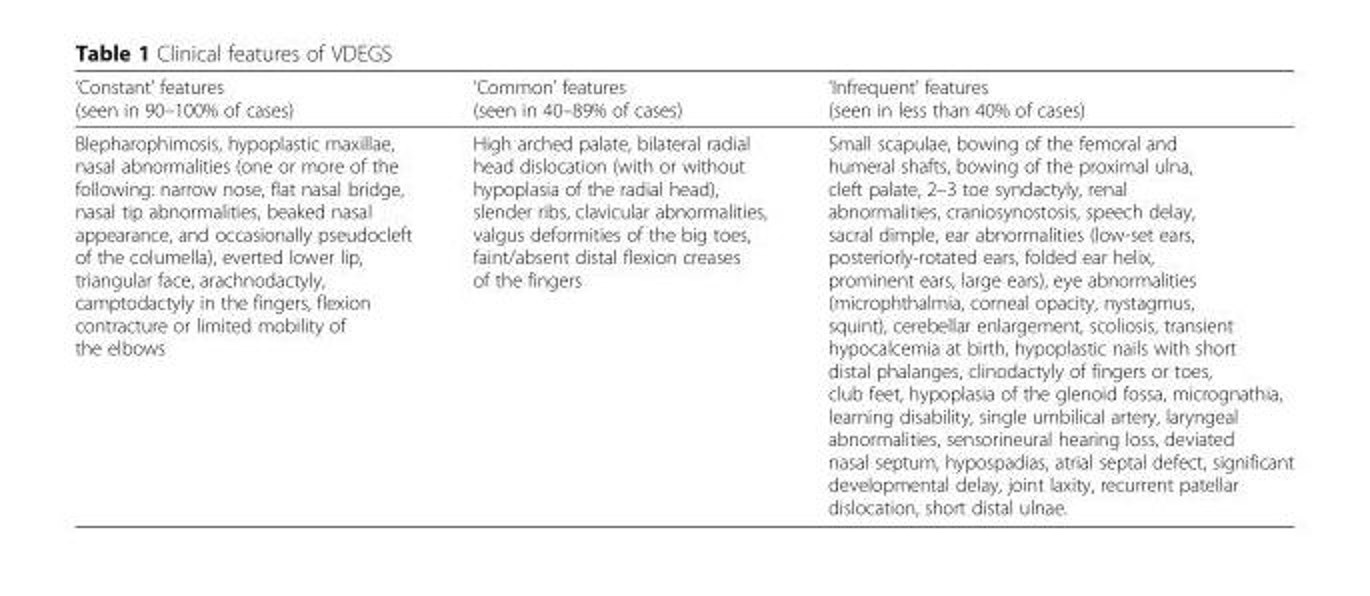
<table><thead><tr><td>‘Constant’ features (seen in 90–100% of cases)</td><td>‘Common’ features (seen in 40–89% of cases)</td><td>‘Infrequent’ features (seen in less than 40% of cases)</td></tr></thead><tbody><tr><td>Blepharophimosis, hypoplastic maxillae, nasal abnormalities (one or more of the following: narrow nose, flat nasal bridge, nasal tip abnormalities, beaked nasal appearance, and occasionally pseudocleft of the columella), everted lower lip, triangular face, arachnodactyly, camptodactyly in the fingers, flexion contracture or limited mobility of the elbows</td><td>High arched palate, bilateral radial head dislocation (with or without hypoplasia of the radial head), slender ribs, clavicular abnormalities, valgus deformities of the big toes, faint/absent distal flexion creases of the fingers</td><td>Small scapulae, bowing of the femoral and humeral shafts, bowing of the proximal ulna, cleft palate, 2–3 toe syndactyly, renal abnormalities, craniosynostosis, speech delay, sacral dimple, ear abnormalities (low-set ears, posteriorly-rotated ears, folded ear helix, prominent ears, large ears), eye abnormalities (microphthalmia, corneal opacity, nystagmus, squint), cerebellar enlargement, scoliosis, transient hypocalcemia at birth, hypoplastic nails with short distal phalanges, clinodactyly of fingers or toes, club feet, hypoplasia of the glenoid fossa, micrognathia, learning disability, single umbilical artery, laryngeal abnormalities, sensorineural hearing loss, deviated nasal septum, hypospadias, atrial septal defect, significant developmental delay, joint laxity, recurrent patellar dislocation, short distal ulnae.</td></tr></tbody></table>